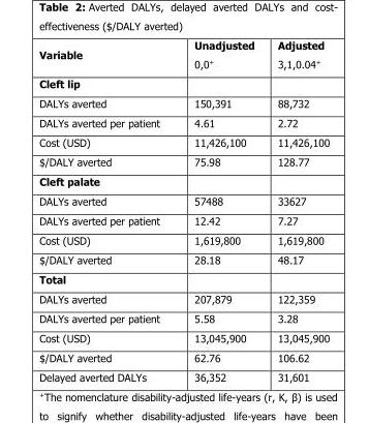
<table><thead><tr><td>Variable</td><td>Unadjusted 0,0<sup>+</sup></td><td>Adjusted 3,1,0.04<sup>+</sup></td></tr></thead><tbody><tr><td colspan="3">Cleft lip</td></tr><tr><td>DALYs averted</td><td>150,391</td><td>88,732</td></tr><tr><td>DALYs averted per patient</td><td>4.61</td><td>2.72</td></tr><tr><td>Cost (USD)</td><td>11,426,100</td><td>11,426,100</td></tr><tr><td>$/DALY averted</td><td>75.98</td><td>128.77</td></tr><tr><td colspan="3">Cleft palate</td></tr><tr><td>DALYs averted</td><td>57488</td><td>33627</td></tr><tr><td>DALYs averted per patient</td><td>12.42</td><td>7.27</td></tr><tr><td>Cost (USD)</td><td>1,619,800</td><td>1,619,800</td></tr><tr><td>$/DALY averted</td><td>28.18</td><td>48.17</td></tr><tr><td colspan="3">Total</td></tr><tr><td>DALYs averted</td><td>207,879</td><td>122,359</td></tr><tr><td>DALYs averted per patient</td><td>5.58</td><td>3.28</td></tr><tr><td>Cost (USD)</td><td>13,045,900</td><td>13,045,900</td></tr><tr><td>$/DALY averted</td><td>62.76</td><td>106.62</td></tr><tr><td>Delayed averted DALYs</td><td>36,352</td><td>31,601</td></tr></tbody></table>